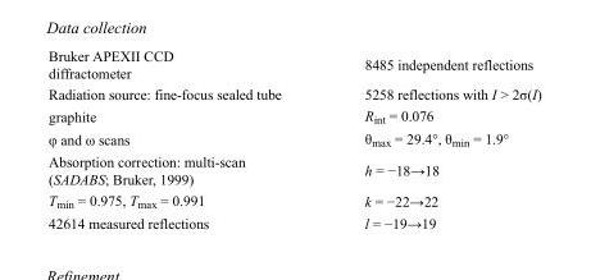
<table><tbody><tr><td>Bruker APEXII CCD diffractometer</td><td>8485 independent reflections</td></tr><tr><td>Radiation source: fine-focus sealed tube</td><td>5258 reflections with I &gt; 2σ(I)</td></tr><tr><td>graphite</td><td>R<sub>int</sub> = 0.076</td></tr><tr><td>φ and ω scans</td><td>θ<sub>max</sub> = 29.4°, θ<sub>min</sub> = 1.9°</td></tr><tr><td>Absorption correction: multi-scan (SADABS; Bruker, 1999)</td><td>h = −18→18</td></tr><tr><td>T<sub>min</sub> = 0.975, T<sub>max</sub> = 0.991</td><td>k = −22→22</td></tr><tr><td>42614 measured reflections</td><td>l = −19→19</td></tr></tbody></table>